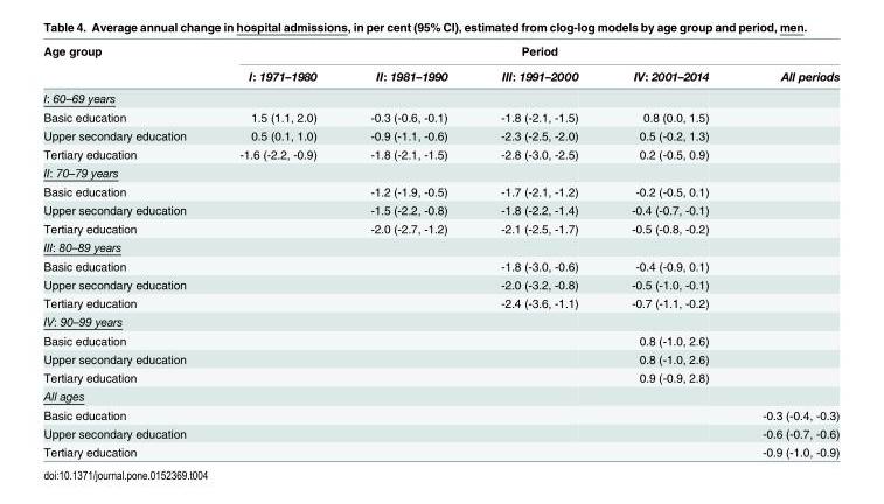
<table><thead><tr><td rowspan="2">Age group</td><td colspan="5">Period</td></tr><tr><td>I: 1971–1980</td><td>II: 1981–1990</td><td>III: 1991–2000</td><td>IV: 2001–2014</td><td>All periods</td></tr></thead><tbody><tr><td colspan="6">I: 60–69 years</td></tr><tr><td>Basic education</td><td>1.5 (1.1, 2.0)</td><td>-0.3 (-0.6, -0.1)</td><td>-1.8 (-2.1, -1.5)</td><td>0.8 (0.0, 1.5)</td><td></td></tr><tr><td>Upper secondary education</td><td>0.5 (0.1, 1.0)</td><td>-0.9 (-1.1, -0.6)</td><td>-2.3 (-2.5, -2.0)</td><td>0.5 (-0.2, 1.3)</td><td></td></tr><tr><td>Tertiary education</td><td>-1.6 (-2.2, -0.9)</td><td>-1.8 (-2.1, -1.5)</td><td>-2.8 (-3.0, -2.5)</td><td>0.2 (-0.5, 0.9)</td><td></td></tr><tr><td colspan="6">II: 70–79 years</td></tr><tr><td>Basic education</td><td></td><td>-1.2 (-1.9, -0.5)</td><td>-1.7 (-2.1, -1.2)</td><td>-0.2 (-0.5, 0.1)</td><td></td></tr><tr><td>Upper secondary education</td><td></td><td>-1.5 (-2.2, -0.8)</td><td>-1.8 (-2.2, -1.4)</td><td>-0.4 (-0.7, -0.1)</td><td></td></tr><tr><td>Tertiary education</td><td></td><td>-2.0 (-2.7, -1.2)</td><td>-2.1 (-2.5, -1.7)</td><td>-0.5 (-0.8, -0.2)</td><td></td></tr><tr><td colspan="6">III: 80–89 years</td></tr><tr><td>Basic education</td><td></td><td></td><td>-1.8 (-3.0, -0.6)</td><td>-0.4 (-0.9, 0.1)</td><td></td></tr><tr><td>Upper secondary education</td><td></td><td></td><td>-2.0 (-3.2, -0.8)</td><td>-0.5 (-1.0, -0.1)</td><td></td></tr><tr><td>Tertiary education</td><td></td><td></td><td>-2.4 (-3.6, -1.1)</td><td>-0.7 (-1.1, -0.2)</td><td></td></tr><tr><td colspan="6">IV: 90–99 years</td></tr><tr><td>Basic education</td><td></td><td></td><td></td><td>0.8 (-1.0, 2.6)</td><td></td></tr><tr><td>Upper secondary education</td><td></td><td></td><td></td><td>0.8 (-1.0, 2.6)</td><td></td></tr><tr><td>Tertiary education</td><td></td><td></td><td></td><td>0.9 (-0.9, 2.8)</td><td></td></tr><tr><td colspan="6">All ages</td></tr><tr><td>Basic education</td><td></td><td></td><td></td><td></td><td>-0.3 (-0.4, -0.3)</td></tr><tr><td>Upper secondary education</td><td></td><td></td><td></td><td></td><td>-0.6 (-0.7, -0.6)</td></tr><tr><td>Tertiary education</td><td></td><td></td><td></td><td></td><td>-0.9 (-1.0, -0.9)</td></tr></tbody></table>